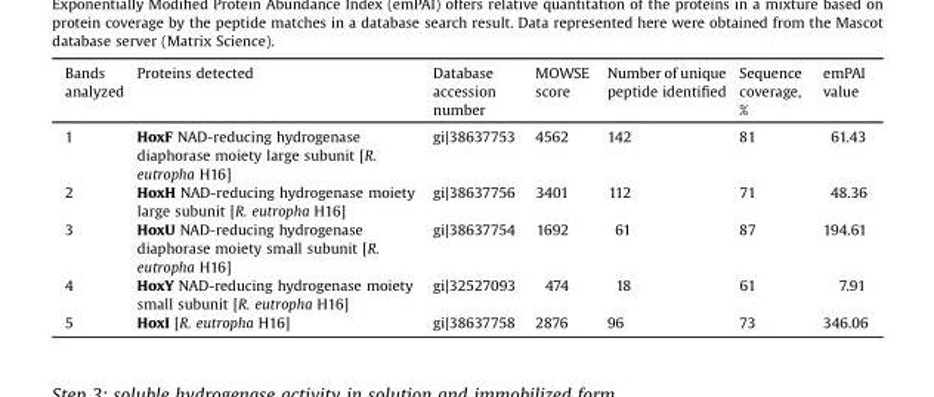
<table><thead><tr><td>Bands analyzed</td><td>Proteins detected</td><td>Database accession number</td><td>MOWSE score</td><td>Number of unique peptide identified</td><td>Sequence coverage, %</td><td>emPAI value</td></tr></thead><tbody><tr><td>1</td><td>HoxF NAD-reducing hydrogenase diaphorase moiety large subunit [R. eutropha H16]</td><td>gi|38637753</td><td>4562</td><td>142</td><td>81</td><td>61.43</td></tr><tr><td>2</td><td>HoxH NAD-reducing hydrogenase moiety large subunit [R. eutropha H16]</td><td>gi|38637756</td><td>3401</td><td>112</td><td>71</td><td>48.36</td></tr><tr><td>3</td><td>HoxU NAD-reducing hydrogenase diaphorase moiety small subunit [R. eutropha H16]</td><td>gi|38637754</td><td>1692</td><td>61</td><td>87</td><td>194.61</td></tr><tr><td>4</td><td>HoxY NAD-reducing hydrogenase moiety small subunit [R. eutropha H16]</td><td>gi|32527093</td><td>474</td><td>18</td><td>61</td><td>7.91</td></tr><tr><td>5</td><td>HoxI [R. eutropha H16]</td><td>gi|38637758</td><td>2876</td><td>96</td><td>73</td><td>346.06</td></tr></tbody></table>